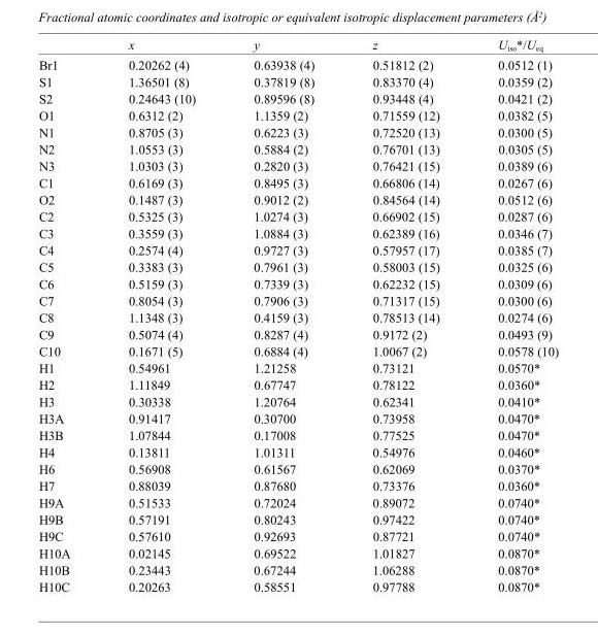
<table><thead><tr><td></td><td>x</td><td>y</td><td>z</td><td>U<sub>iso</sub>*/U<sub>eq</sub></td></tr></thead><tbody><tr><td>Br1</td><td>0.20262 (4)</td><td>0.63938 (4)</td><td>0.51812 (2)</td><td>0.0512 (1)</td></tr><tr><td>S1</td><td>1.36501 (8)</td><td>0.37819 (8)</td><td>0.83370 (4)</td><td>0.0359 (2)</td></tr><tr><td>S2</td><td>0.24643 (10)</td><td>0.89596 (8)</td><td>0.93448 (4)</td><td>0.0421 (2)</td></tr><tr><td>O1</td><td>0.6312 (2)</td><td>1.1359 (2)</td><td>0.71559 (12)</td><td>0.0382 (5)</td></tr><tr><td>N1</td><td>0.8705 (3)</td><td>0.6223 (3)</td><td>0.72520 (13)</td><td>0.0300 (5)</td></tr><tr><td>N2</td><td>1.0553 (3)</td><td>0.5884 (2)</td><td>0.76701 (13)</td><td>0.0305 (5)</td></tr><tr><td>N3</td><td>1.0303 (3)</td><td>0.2820 (3)</td><td>0.76421 (15)</td><td>0.0389 (6)</td></tr><tr><td>C1</td><td>0.6169 (3)</td><td>0.8495 (3)</td><td>0.66806 (14)</td><td>0.0267 (6)</td></tr><tr><td>O2</td><td>0.1487 (3)</td><td>0.9012 (2)</td><td>0.84564 (14)</td><td>0.0512 (6)</td></tr><tr><td>C2</td><td>0.5325 (3)</td><td>1.0274 (3)</td><td>0.66902 (15)</td><td>0.0287 (6)</td></tr><tr><td>C3</td><td>0.3559 (3)</td><td>1.0884 (3)</td><td>0.62389 (16)</td><td>0.0346 (7)</td></tr><tr><td>C4</td><td>0.2574 (4)</td><td>0.9727 (3)</td><td>0.57957 (17)</td><td>0.0385 (7)</td></tr><tr><td>C5</td><td>0.3383 (3)</td><td>0.7961 (3)</td><td>0.58003 (15)</td><td>0.0325 (6)</td></tr><tr><td>C6</td><td>0.5159 (3)</td><td>0.7339 (3)</td><td>0.62232 (15)</td><td>0.0309 (6)</td></tr><tr><td>C7</td><td>0.8054 (3)</td><td>0.7906 (3)</td><td>0.71317 (15)</td><td>0.0300 (6)</td></tr><tr><td>C8</td><td>1.1348 (3)</td><td>0.4159 (3)</td><td>0.78513 (14)</td><td>0.0274 (6)</td></tr><tr><td>C9</td><td>0.5074 (4)</td><td>0.8287 (4)</td><td>0.9172 (2)</td><td>0.0493 (9)</td></tr><tr><td>C10</td><td>0.1671 (5)</td><td>0.6884 (4)</td><td>1.0067 (2)</td><td>0.0578 (10)</td></tr><tr><td>H1</td><td>0.54961</td><td>1.21258</td><td>0.73121</td><td>0.0570*</td></tr><tr><td>H2</td><td>1.11849</td><td>0.67747</td><td>0.78122</td><td>0.0360*</td></tr><tr><td>H3</td><td>0.30338</td><td>1.20764</td><td>0.62341</td><td>0.0410*</td></tr><tr><td>H3A</td><td>0.91417</td><td>0.30700</td><td>0.73958</td><td>0.0470*</td></tr><tr><td>H3B</td><td>1.07844</td><td>0.17008</td><td>0.77525</td><td>0.0470*</td></tr><tr><td>H4</td><td>0.13811</td><td>1.01311</td><td>0.54976</td><td>0.0460*</td></tr><tr><td>H6</td><td>0.56908</td><td>0.61567</td><td>0.62069</td><td>0.0370*</td></tr><tr><td>H7</td><td>0.88039</td><td>0.87680</td><td>0.73376</td><td>0.0360*</td></tr><tr><td>H9A</td><td>0.51533</td><td>0.72024</td><td>0.89072</td><td>0.0740*</td></tr><tr><td>H9B</td><td>0.57191</td><td>0.80243</td><td>0.97422</td><td>0.0740*</td></tr><tr><td>H9C</td><td>0.57610</td><td>0.92693</td><td>0.87721</td><td>0.0740*</td></tr><tr><td>H10A</td><td>0.02145</td><td>0.69522</td><td>1.01827</td><td>0.0870*</td></tr><tr><td>H10B</td><td>0.23443</td><td>0.67244</td><td>1.06288</td><td>0.0870*</td></tr><tr><td>H10C</td><td>0.20263</td><td>0.58551</td><td>0.97788</td><td>0.0870*</td></tr></tbody></table>